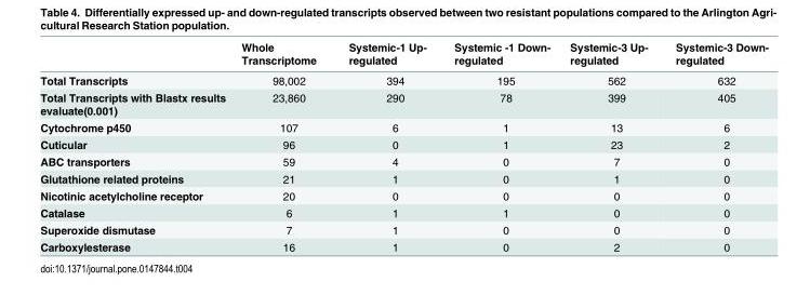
<table><thead><tr><td></td><td>Whole Transcriptome</td><td>Systemic-1 Up- regulated</td><td>Systemic -1 Down- regulated</td><td>Systemic-3 Up- regulated</td><td>Systemic-3 Down- regulated</td></tr></thead><tbody><tr><td>Total Transcripts</td><td>98,002</td><td>394</td><td>195</td><td>562</td><td>632</td></tr><tr><td>Total Transcripts with Blastx results evaluate(0.001)</td><td>23,860</td><td>290</td><td>78</td><td>399</td><td>405</td></tr><tr><td>Cytochrome p450</td><td>107</td><td>6</td><td>1</td><td>13</td><td>6</td></tr><tr><td>Cuticular</td><td>96</td><td>0</td><td>1</td><td>23</td><td>2</td></tr><tr><td>ABC transporters</td><td>59</td><td>4</td><td>0</td><td>7</td><td>0</td></tr><tr><td>Glutathione related proteins</td><td>21</td><td>1</td><td>0</td><td>1</td><td>0</td></tr><tr><td>Nicotinic acetylcholine receptor</td><td>20</td><td>0</td><td>0</td><td>0</td><td>0</td></tr><tr><td>Catalase</td><td>6</td><td>1</td><td>1</td><td>0</td><td>0</td></tr><tr><td>Superoxide dismutase</td><td>7</td><td>1</td><td>0</td><td>0</td><td>0</td></tr><tr><td>Carboxylesterase</td><td>16</td><td>1</td><td>0</td><td>2</td><td>0</td></tr></tbody></table>